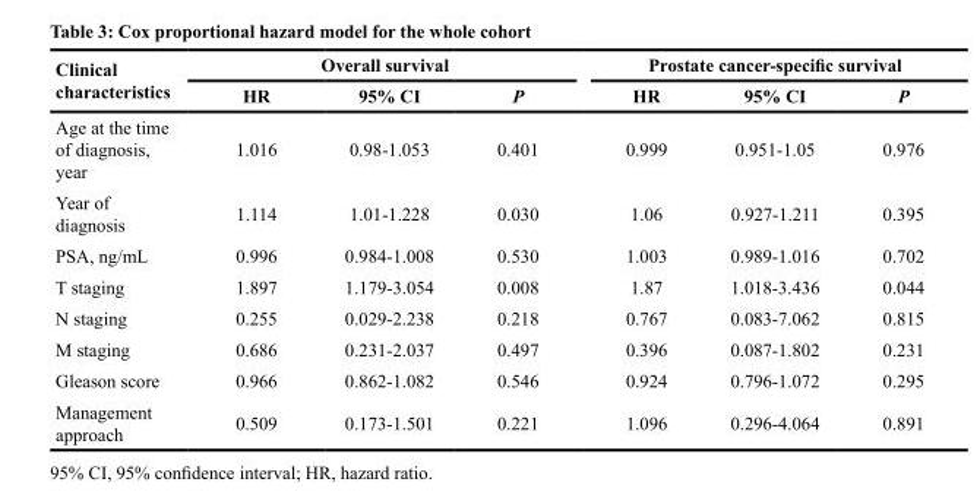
<table><thead><tr><td rowspan="2">Clinical characteristics</td><td colspan="3">Overall survival</td><td colspan="3">Prostate cancer-specific survival</td></tr><tr><td>HR</td><td>95% CI</td><td>P</td><td>HR</td><td>95% CI</td><td>P</td></tr></thead><tbody><tr><td>Age at the time of diagnosis, year</td><td>1.016</td><td>0.98-1.053</td><td>0.401</td><td>0.999</td><td>0.951-1.05</td><td>0.976</td></tr><tr><td>Year of diagnosis</td><td>1.114</td><td>1.01-1.228</td><td>0.030</td><td>1.06</td><td>0.927-1.211</td><td>0.395</td></tr><tr><td>PSA, ng/mL</td><td>0.996</td><td>0.984-1.008</td><td>0.530</td><td>1.003</td><td>0.989-1.016</td><td>0.702</td></tr><tr><td>T staging</td><td>1.897</td><td>1.179-3.054</td><td>0.008</td><td>1.87</td><td>1.018-3.436</td><td>0.044</td></tr><tr><td>N staging</td><td>0.255</td><td>0.029-2.238</td><td>0.218</td><td>0.767</td><td>0.083-7.062</td><td>0.815</td></tr><tr><td>M staging</td><td>0.686</td><td>0.231-2.037</td><td>0.497</td><td>0.396</td><td>0.087-1.802</td><td>0.231</td></tr><tr><td>Gleason score</td><td>0.966</td><td>0.862-1.082</td><td>0.546</td><td>0.924</td><td>0.796-1.072</td><td>0.295</td></tr><tr><td>Management approach</td><td>0.509</td><td>0.173-1.501</td><td>0.221</td><td>1.096</td><td>0.296-4.064</td><td>0.891</td></tr></tbody></table>